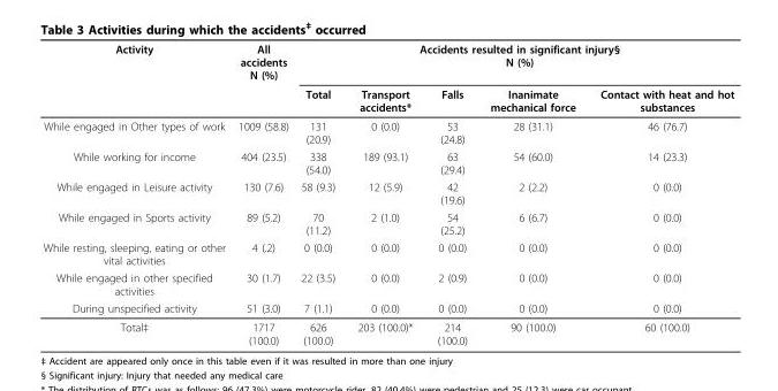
<table><thead><tr><td rowspan="2">Activity</td><td rowspan="2">All accidents N (%)</td><td colspan="5">Accidents resulted in significant injury§ N (%)</td></tr><tr><td>Total</td><td>Transport accidents*</td><td>Falls</td><td>Inanimate mechanical force</td><td>Contact with heat and hot substances</td></tr></thead><tbody><tr><td>While engaged in Other types of work</td><td>1009 (58.8)</td><td>131 (20.9)</td><td>0 (0.0)</td><td>53 (24.8)</td><td>28 (31.1)</td><td>46 (76.7)</td></tr><tr><td>While working for income</td><td>404 (23.5)</td><td>338 (54.0)</td><td>189 (93.1)</td><td>63 (29.4)</td><td>54 (60.0)</td><td>14 (23.3)</td></tr><tr><td>While engaged in Leisure activity</td><td>130 (7.6)</td><td>58 (9.3)</td><td>12 (5.9)</td><td>42 (19.6)</td><td>2 (2.2)</td><td>0 (0.0)</td></tr><tr><td>While engaged in Sports activity</td><td>89 (5.2)</td><td>70 (11.2)</td><td>2 (1.0)</td><td>54 (25.2)</td><td>6 (6.7)</td><td>0 (0.0)</td></tr><tr><td>While resting, sleeping, eating or other vital activities</td><td>4 (.2)</td><td>0 (0.0)</td><td>0 (0.0)</td><td>0 (0.0)</td><td>0 (0.0)</td><td>0 (0.0)</td></tr><tr><td>While engaged in other specified activities</td><td>30 (1.7)</td><td>22 (3.5)</td><td>0 (0.0)</td><td>2 (0.9)</td><td>0 (0.0)</td><td>0 (0.0)</td></tr><tr><td>During unspecified activity</td><td>51 (3.0)</td><td>7 (1.1)</td><td>0 (0.0)</td><td>0 (0.0)</td><td>0 (0.0)</td><td>0 (0.0)</td></tr><tr><td>Total‡</td><td>1717 (100.0)</td><td>626 (100.0)</td><td>203 (100.0)*</td><td>214 (100.0)</td><td>90 (100.0)</td><td>60 (100.0)</td></tr></tbody></table>